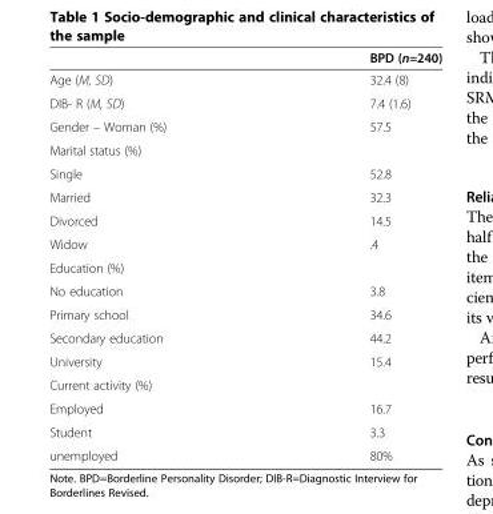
<table><thead><tr><td></td><td>BPD (n=240)</td></tr></thead><tbody><tr><td>Age (M, SD)</td><td>32.4 (8)</td></tr><tr><td>DIB- R (M, SD)</td><td>7.4 (1.6)</td></tr><tr><td>Gender – Woman (%)</td><td>57.5</td></tr><tr><td colspan="2">Marital status (%)</td></tr><tr><td>Single</td><td>52.8</td></tr><tr><td>Married</td><td>32.3</td></tr><tr><td>Divorced</td><td>14.5</td></tr><tr><td>Widow</td><td>.4</td></tr><tr><td colspan="2">Education (%)</td></tr><tr><td>No education</td><td>3.8</td></tr><tr><td>Primary school</td><td>34.6</td></tr><tr><td>Secondary education</td><td>44.2</td></tr><tr><td>University</td><td>15.4</td></tr><tr><td colspan="2">Current activity (%)</td></tr><tr><td>Employed</td><td>16.7</td></tr><tr><td>Student</td><td>3.3</td></tr><tr><td>unemployed</td><td>80%</td></tr></tbody></table>